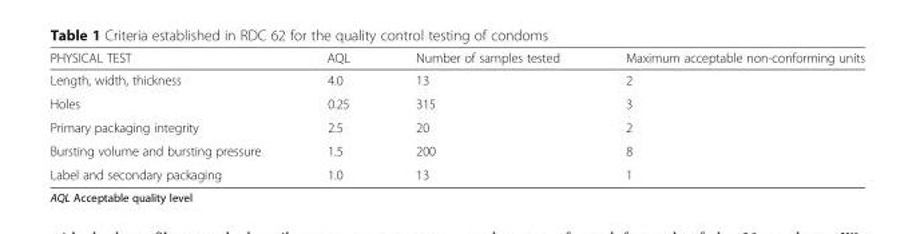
<table><thead><tr><td>PHYSICAL TEST</td><td>AQL</td><td>Number of samples tested</td><td>Maximum acceptable non-conforming units</td></tr></thead><tbody><tr><td>Length, width, thickness</td><td>4.0</td><td>13</td><td>2</td></tr><tr><td>Holes</td><td>0.25</td><td>315</td><td>3</td></tr><tr><td>Primary packaging integrity</td><td>2.5</td><td>20</td><td>2</td></tr><tr><td>Bursting volume and bursting pressure</td><td>1.5</td><td>200</td><td>8</td></tr><tr><td>Label and secondary packaging</td><td>1.0</td><td>13</td><td>1</td></tr></tbody></table>